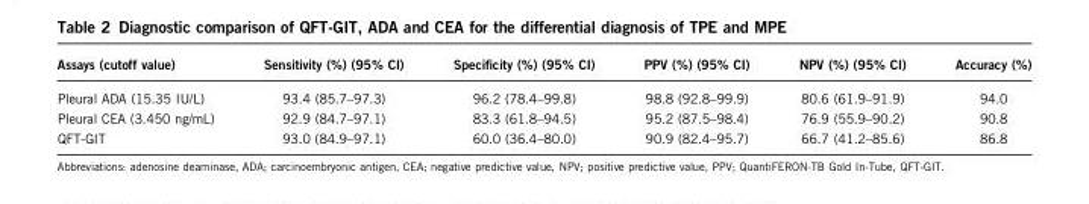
<table><thead><tr><td>Assays (cutoff value)</td><td>Sensitivity (%) (95% CI)</td><td>Specificity (%) (95% CI)</td><td>PPV (%) (95% CI)</td><td>NPV (%) (95% CI)</td><td>Accuracy (%)</td></tr></thead><tbody><tr><td>Pleural ADA (15.35 IU/L)</td><td>93.4 (85.7–97.3)</td><td>96.2 (78.4–99.8)</td><td>98.8 (92.8–99.9)</td><td>80.6 (61.9–91.9)</td><td>94.0</td></tr><tr><td>Pleural CEA (3.450 ng/mL)</td><td>92.9 (84.7–97.1)</td><td>83.3 (61.8–94.5)</td><td>95.2 (87.5–98.4)</td><td>76.9 (55.9–90.2)</td><td>90.8</td></tr><tr><td>QFT-GIT</td><td>93.0 (84.9–97.1)</td><td>60.0 (36.4–80.0)</td><td>90.9 (82.4–95.7)</td><td>66.7 (41.2–85.6)</td><td>86.8</td></tr></tbody></table>